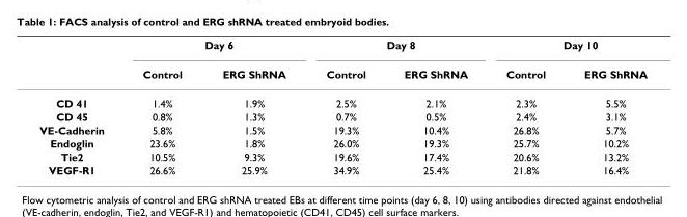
<table><thead><tr><td rowspan="2"></td><td colspan="2">Day 6</td><td colspan="2">Day 8</td><td colspan="2">Day 10</td></tr><tr><td>Control</td><td>ERG ShRNA</td><td>Control</td><td>ERG ShRNA</td><td>Control</td><td>ERG ShRNA</td></tr></thead><tbody><tr><td>CD 41</td><td>1.4%</td><td>1.9%</td><td>2.5%</td><td>2.1%</td><td>2.3%</td><td>5.5%</td></tr><tr><td>CD 45</td><td>0.8%</td><td>1.3%</td><td>0.7%</td><td>0.5%</td><td>2.4%</td><td>3.1%</td></tr><tr><td>VE-Cadherin</td><td>5.8%</td><td>1.5%</td><td>19.3%</td><td>10.4%</td><td>26.8%</td><td>5.7%</td></tr><tr><td>Endoglin</td><td>23.6%</td><td>1.8%</td><td>26.0%</td><td>19.3%</td><td>25.7%</td><td>10.2%</td></tr><tr><td>Tie2</td><td>10.5%</td><td>9.3%</td><td>19.6%</td><td>17.4%</td><td>20.6%</td><td>13.2%</td></tr><tr><td>VEGF-R1</td><td>26.6%</td><td>25.9%</td><td>34.9%</td><td>25.4%</td><td>21.8%</td><td>16.4%</td></tr></tbody></table>